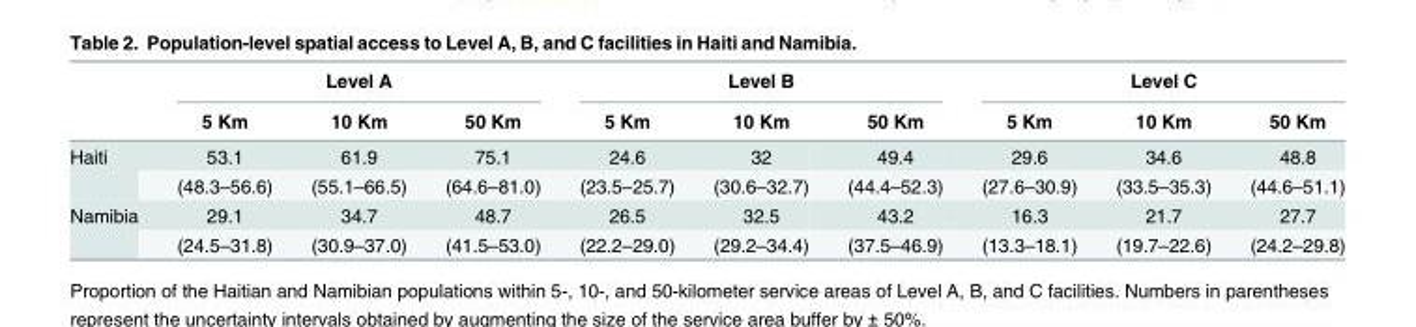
<table><thead><tr><td rowspan="2"></td><td colspan="3">Level A</td><td colspan="3">Level B</td><td colspan="3">Level C</td></tr><tr><td>5 Km</td><td>10 Km</td><td>50 Km</td><td>5 Km</td><td>10 Km</td><td>50 Km</td><td>5 Km</td><td>10 Km</td><td>50 Km</td></tr></thead><tbody><tr><td rowspan="2">Haiti</td><td>53.1</td><td>61.9</td><td>75.1</td><td>24.6</td><td>32</td><td>49.4</td><td>29.6</td><td>34.6</td><td>48.8</td></tr><tr><td>(48.3–56.6)</td><td>(55.1–66.5)</td><td>(64.6–81.0)</td><td>(23.5–25.7)</td><td>(30.6–32.7)</td><td>(44.4–52.3)</td><td>(27.6–30.9)</td><td>(33.5–35.3)</td><td>(44.6–51.1)</td></tr><tr><td rowspan="2">Namibia</td><td>29.1</td><td>34.7</td><td>48.7</td><td>26.5</td><td>32.5</td><td>43.2</td><td>16.3</td><td>21.7</td><td>27.7</td></tr><tr><td>(24.5–31.8)</td><td>(30.9–37.0)</td><td>(41.5–53.0)</td><td>(22.2–29.0)</td><td>(29.2–34.4)</td><td>(37.5–46.9)</td><td>(13.3–18.1)</td><td>(19.7–22.6)</td><td>(24.2–29.8)</td></tr></tbody></table>